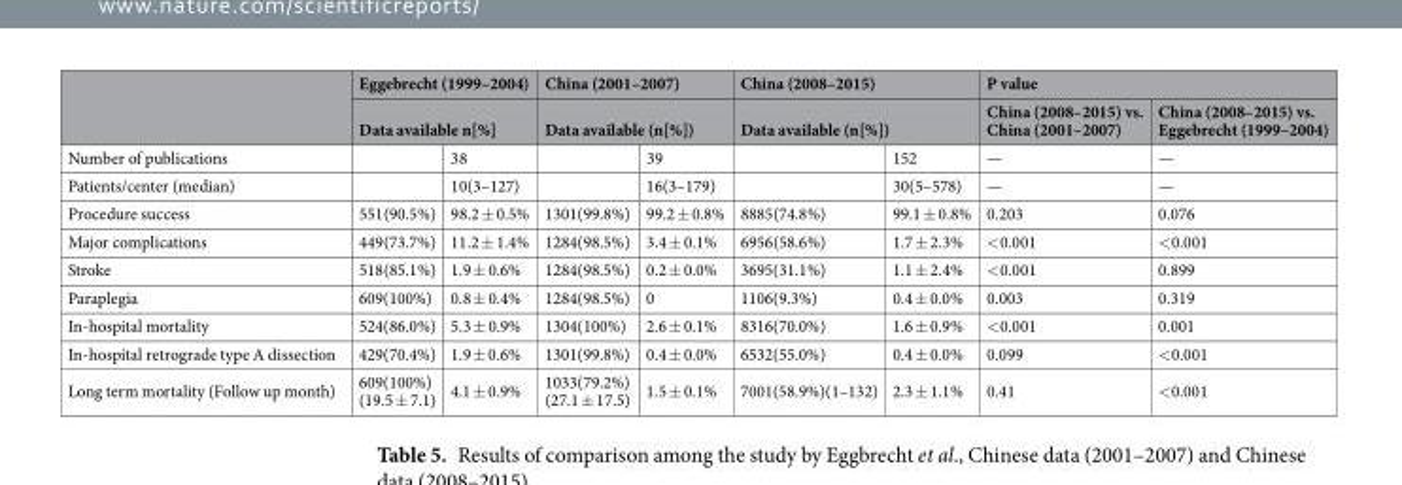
<table><thead><tr><td rowspan="3">Number of publications</td><td rowspan="2" colspan="2">Eggebrecht (1999–2004) Data available n[%]</td><td rowspan="2" colspan="2">China (2001–2007) Data available (n[%])</td><td rowspan="2" colspan="2">China (2008–2015) Data available (n[%])</td><td colspan="2">P value</td></tr><tr><td rowspan="2">China (2008–2015) vs. China (2001–2007) —</td><td rowspan="2">China (2008–2015) vs. Eggebrecht (1999–2004) —</td></tr><tr><td></td><td>38</td><td></td><td>39</td><td></td><td>152</td></tr></thead><tbody><tr><td>Patients/center (median)</td><td></td><td>10(3–127)</td><td></td><td>16(3–179)</td><td></td><td>30(5–578)</td><td>—</td><td>—</td></tr><tr><td>Procedure success</td><td>551(90.5%)</td><td>98.2 ± 0.5%</td><td>1301(99.8%)</td><td>99.2 ± 0.8%</td><td>8885(74.8%)</td><td>99.1 ± 0.8%</td><td>0.203</td><td>0.076</td></tr><tr><td>Major complications</td><td>449(73.7%)</td><td>11.2 ± 1.4%</td><td>1284(98.5%)</td><td>3.4 ± 0.1%</td><td>6956(58.6%)</td><td>1.7 ± 2.3%</td><td>&lt;0.001</td><td>&lt;0.001</td></tr><tr><td>Stroke</td><td>518(85.1%)</td><td>1.9 ± 0.6%</td><td>1284(98.5%)</td><td>0.2 ± 0.0%</td><td>3695(31.1%)</td><td>1.1 ± 2.4%</td><td>&lt;0.001</td><td>0.899</td></tr><tr><td>Paraplegia</td><td>609(100%)</td><td>0.8 ± 0.4%</td><td>1284(98.5%)</td><td>0</td><td>1106(9.3%)</td><td>0.4 ± 0.0%</td><td>0.003</td><td>0.319</td></tr><tr><td>In-hospital mortality</td><td>524(86.0%)</td><td>5.3 ± 0.9%</td><td>1304(100%)</td><td>2.6 ± 0.1%</td><td>8316(70.0%)</td><td>1.6 ± 0.9%</td><td>&lt;0.001</td><td>0.001</td></tr><tr><td>In-hospital retrograde type A dissection</td><td>429(70.4%)</td><td>1.9 ± 0.6%</td><td>1301(99.8%)</td><td>0.4 ± 0.0%</td><td>6532(55.0%)</td><td>0.4 ± 0.0%</td><td>0.099</td><td>&lt;0.001</td></tr><tr><td>Long term mortality (Follow up month)</td><td>609(100%) (19.5 ± 7.1)</td><td>4.1 ± 0.9%</td><td>1033(79.2%) (27.1 ± 17.5)</td><td>1.5 ± 0.1%</td><td>7001(58.9%)(1–132)</td><td>2.3 ± 1.1%</td><td>0.41</td><td>&lt;0.001</td></tr></tbody></table>